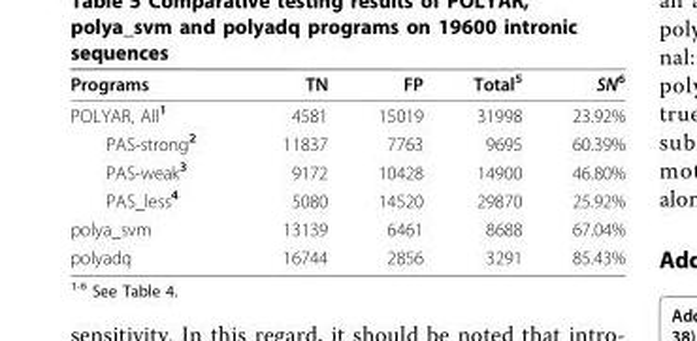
<table><thead><tr><td>Programs</td><td>TN</td><td>FP</td><td>Total<sup>5</sup></td><td>SN<sup>6</sup></td></tr></thead><tbody><tr><td>POLYAR, All<sup>1</sup></td><td>4581</td><td>15019</td><td>31998</td><td>23.92%</td></tr><tr><td>PAS-strong<sup>2</sup></td><td>11837</td><td>7763</td><td>9695</td><td>60.39%</td></tr><tr><td>PAS-weak<sup>3</sup></td><td>9172</td><td>10428</td><td>14900</td><td>46.80%</td></tr><tr><td>PAS_less<sup>4</sup></td><td>5080</td><td>14520</td><td>29870</td><td>25.92%</td></tr><tr><td>polya_svm</td><td>13139</td><td>6461</td><td>8688</td><td>67.04%</td></tr><tr><td>polyadq</td><td>16744</td><td>2856</td><td>3291</td><td>85.43%</td></tr></tbody></table>